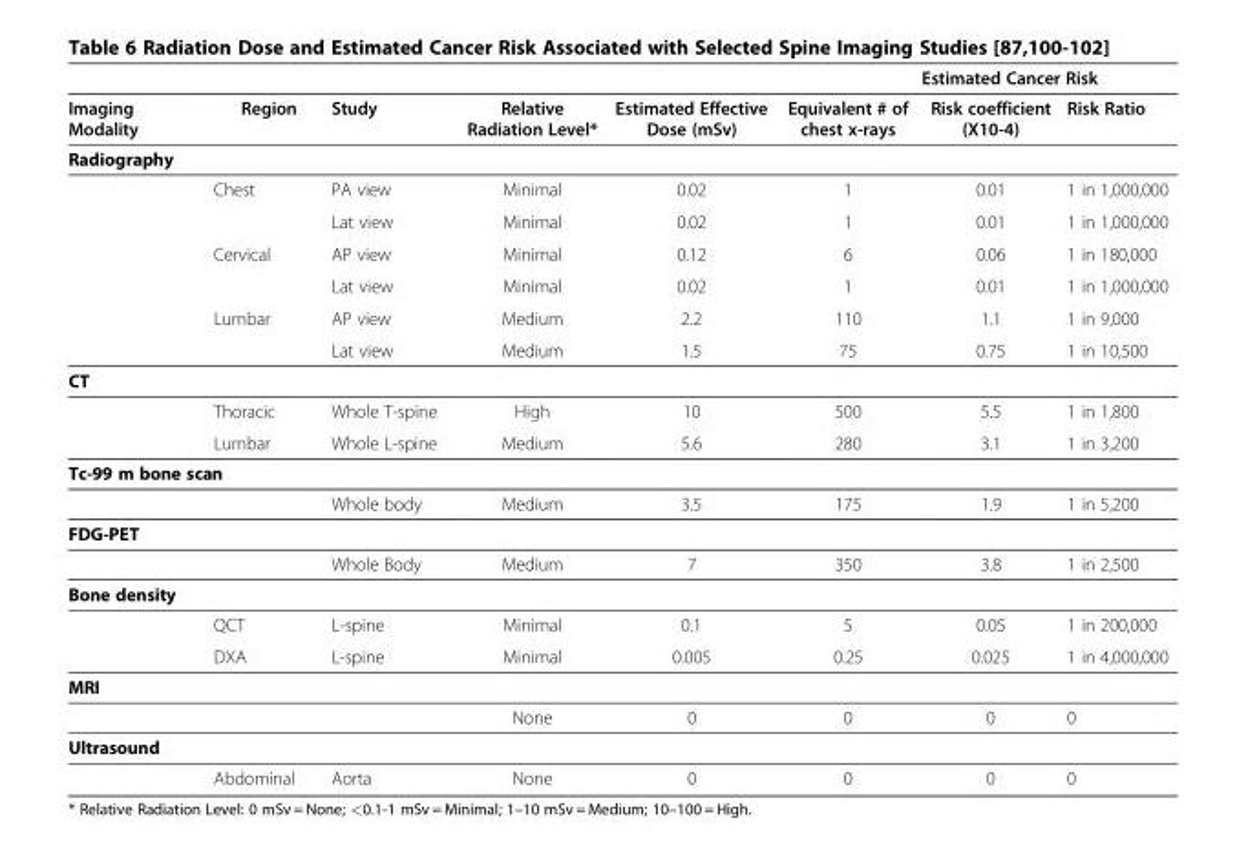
<table><thead><tr><td rowspan="2">Imaging Modality</td><td rowspan="2">Region</td><td rowspan="2">Study</td><td rowspan="2">Relative Radiation Level*</td><td rowspan="2">Estimated Effective Dose (mSv)</td><td rowspan="2">Equivalent # of chest x-rays</td><td colspan="2">Estimated Cancer Risk</td></tr><tr><td>Risk coefficient (X10-4)</td><td>Risk Ratio</td></tr></thead><tbody><tr><td colspan="8">Radiography</td></tr><tr><td></td><td>Chest</td><td>PA view</td><td>Minimal</td><td>0.02</td><td>1</td><td>0.01</td><td>1 in 1,000,000</td></tr><tr><td></td><td></td><td>Lat view</td><td>Minimal</td><td>0.02</td><td>1</td><td>0.01</td><td>1 in 1,000,000</td></tr><tr><td></td><td>Cervical</td><td>AP view</td><td>Minimal</td><td>0.12</td><td>6</td><td>0.06</td><td>1 in 180,000</td></tr><tr><td></td><td></td><td>Lat view</td><td>Minimal</td><td>0.02</td><td>1</td><td>0.01</td><td>1 in 1,000,000</td></tr><tr><td></td><td>Lumbar</td><td>AP view</td><td>Medium</td><td>2.2</td><td>110</td><td>1.1</td><td>1 in 9,000</td></tr><tr><td></td><td></td><td>Lat view</td><td>Medium</td><td>1.5</td><td>75</td><td>0.75</td><td>1 in 10,500</td></tr><tr><td colspan="8">CT</td></tr><tr><td></td><td>Thoracic</td><td>Whole T-spine</td><td>High</td><td>10</td><td>500</td><td>5.5</td><td>1 in 1,800</td></tr><tr><td></td><td>Lumbar</td><td>Whole L-spine</td><td>Medium</td><td>5.6</td><td>280</td><td>3.1</td><td>1 in 3,200</td></tr><tr><td colspan="8">Tc-99 m bone scan</td></tr><tr><td></td><td></td><td>Whole body</td><td>Medium</td><td>3.5</td><td>175</td><td>1.9</td><td>1 in 5,200</td></tr><tr><td colspan="8">FDG-PET</td></tr><tr><td></td><td></td><td>Whole Body</td><td>Medium</td><td>7</td><td>350</td><td>3.8</td><td>1 in 2,500</td></tr><tr><td colspan="8">Bone density</td></tr><tr><td></td><td>QCT</td><td>L-spine</td><td>Minimal</td><td>0.1</td><td>5</td><td>0.05</td><td>1 in 200,000</td></tr><tr><td></td><td>DXA</td><td>L-spine</td><td>Minimal</td><td>0.005</td><td>0.25</td><td>0.025</td><td>1 in 4,000,000</td></tr><tr><td colspan="8">MRI</td></tr><tr><td></td><td></td><td></td><td>None</td><td>0</td><td>0</td><td>0</td><td>0</td></tr><tr><td colspan="8">Ultrasound</td></tr><tr><td></td><td>Abdominal</td><td>Aorta</td><td>None</td><td>0</td><td>0</td><td>0</td><td>0</td></tr></tbody></table>